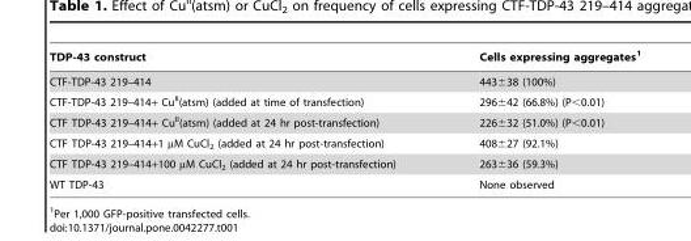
<table><thead><tr><td>TDP-43 construct</td><td>Cells expressing aggregates<sup>1</sup></td></tr></thead><tbody><tr><td>CTF-TDP-43 219–414</td><td>443±38 (100%)</td></tr><tr><td>CTF-TDP-43 219–414+ Cu<sup>II</sup>(atsm) (added at time of transfection)</td><td>296±42 (66.8%) (P&lt;0.01)</td></tr><tr><td>CTF TDP-43 219–414+ Cu<sup>II</sup>(atsm) (added at 24 hr post-transfection)</td><td>226±32 (51.0%) (P&lt;0.01)</td></tr><tr><td>CTF TDP-43 219–414+1 µM CuCl<sub>2</sub> (added at 24 hr post-transfection)</td><td>408±27 (92.1%)</td></tr><tr><td>CTF TDP-43 219–414+100 µM CuCl<sub>2</sub> (added at 24 hr post-transfection)</td><td>263±36 (59.3%)</td></tr><tr><td>WT TDP-43</td><td>None observed</td></tr></tbody></table>